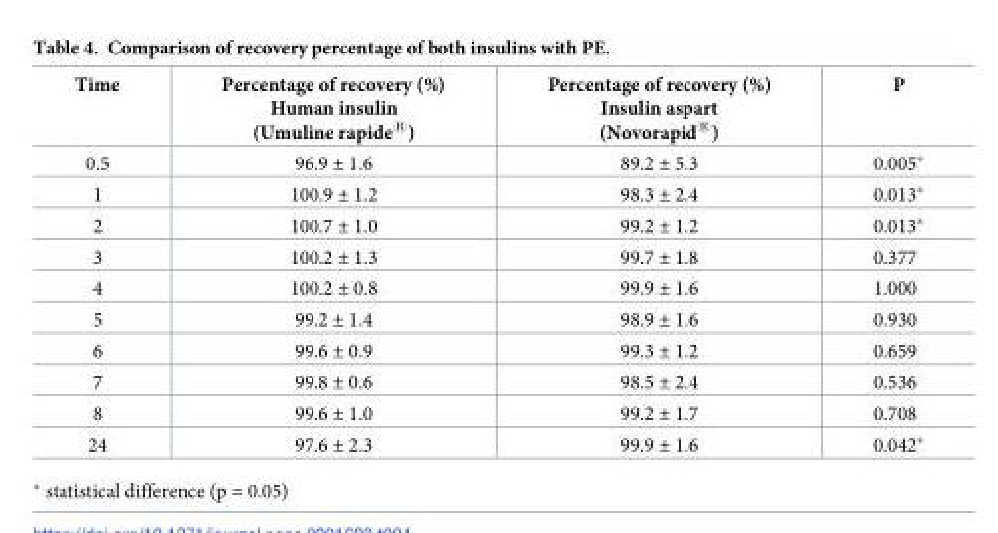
<table><thead><tr><td>Time</td><td>Percentage of recovery (%) Human insulin (Umuline rapide<sup>®</sup>)</td><td>Percentage of recovery (%) Insulin aspart (Novorapid<sup>®</sup>)</td><td>P</td></tr></thead><tbody><tr><td>0.5</td><td>96.9 ± 1.6</td><td>89.2 ± 5.3</td><td>0.005*</td></tr><tr><td>1</td><td>100.9 ± 1.2</td><td>98.3 ± 2.4</td><td>0.013*</td></tr><tr><td>2</td><td>100.7 ± 1.0</td><td>99.2 ± 1.2</td><td>0.013*</td></tr><tr><td>3</td><td>100.2 ± 1.3</td><td>99.7 ± 1.8</td><td>0.377</td></tr><tr><td>4</td><td>100.2 ± 0.8</td><td>99.9 ± 1.6</td><td>1.000</td></tr><tr><td>5</td><td>99.2 ± 1.4</td><td>98.9 ± 1.6</td><td>0.930</td></tr><tr><td>6</td><td>99.6 ± 0.9</td><td>99.3 ± 1.2</td><td>0.659</td></tr><tr><td>7</td><td>99.8 ± 0.6</td><td>98.5 ± 2.4</td><td>0.536</td></tr><tr><td>8</td><td>99.6 ± 1.0</td><td>99.2 ± 1.7</td><td>0.708</td></tr><tr><td>24</td><td>97.6 ± 2.3</td><td>99.9 ± 1.6</td><td>0.042*</td></tr></tbody></table>